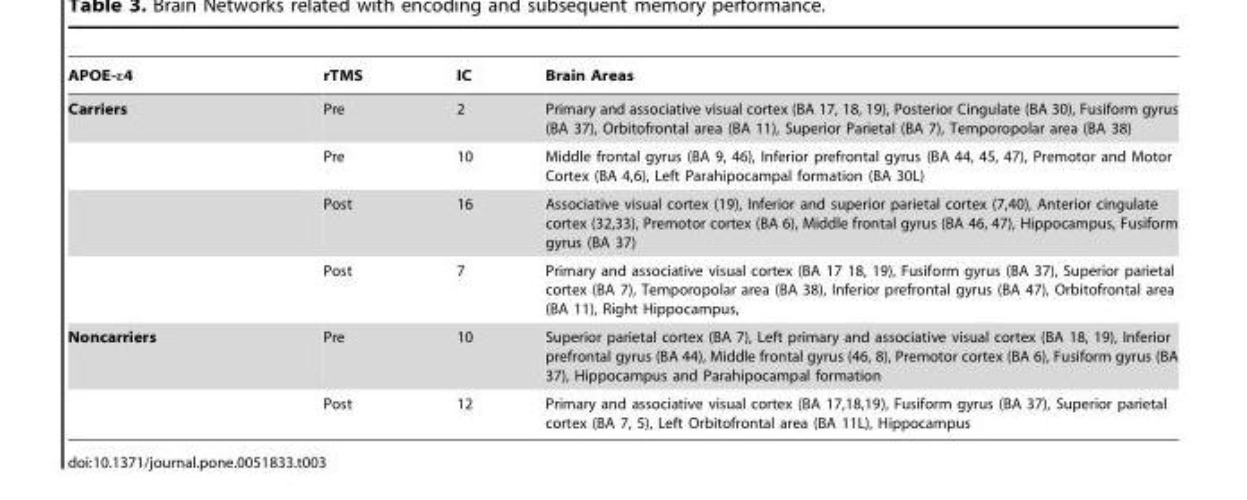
<table><thead><tr><td>APOE-ε4</td><td>rTMS</td><td>IC</td><td>Brain Areas</td></tr></thead><tbody><tr><td rowspan="4">Carriers</td><td>Pre</td><td>2</td><td>Primary and associative visual cortex (BA 17, 18, 19), Posterior Cingulate (BA 30), Fusiform gyrus (BA 37), Orbitofrontal area (BA 11), Superior Parietal (BA 7), Temporopolar area (BA 38)</td></tr><tr><td>Pre</td><td>10</td><td>Middle frontal gyrus (BA 9, 46), Inferior prefrontal gyrus (BA 44, 45, 47), Premotor and Motor Cortex (BA 4,6), Left Parahipocampal formation (BA 30L)</td></tr><tr><td>Post</td><td>16</td><td>Associative visual cortex (19), Inferior and superior parietal cortex (7,40), Anterior cingulate cortex (32,33), Premotor cortex (BA 6), Middle frontal gyrus (BA 46, 47), Hippocampus, Fusiform gyrus (BA 37)</td></tr><tr><td>Post</td><td>7</td><td>Primary and associative visual cortex (BA 17 18, 19), Fusiform gyrus (BA 37), Superior parietal cortex (BA 7), Temporopolar area (BA 38), Inferior prefrontal gyrus (BA 47), Orbitofrontal area (BA 11), Right Hippocampus,</td></tr><tr><td rowspan="2">Noncarriers</td><td>Pre</td><td>10</td><td>Superior parietal cortex (BA 7), Left primary and associative visual cortex (BA 18, 19), Inferior prefrontal gyrus (BA 44), Middle frontal gyrus (46, 8), Premotor cortex (BA 6), Fusiform gyrus (BA 37), Hippocampus and Parahipocampal formation</td></tr><tr><td>Post</td><td>12</td><td>Primary and associative visual cortex (BA 17,18,19), Fusiform gyrus (BA 37), Superior parietal cortex (BA 7, 5), Left Orbitofrontal area (BA 11L), Hippocampus</td></tr></tbody></table>